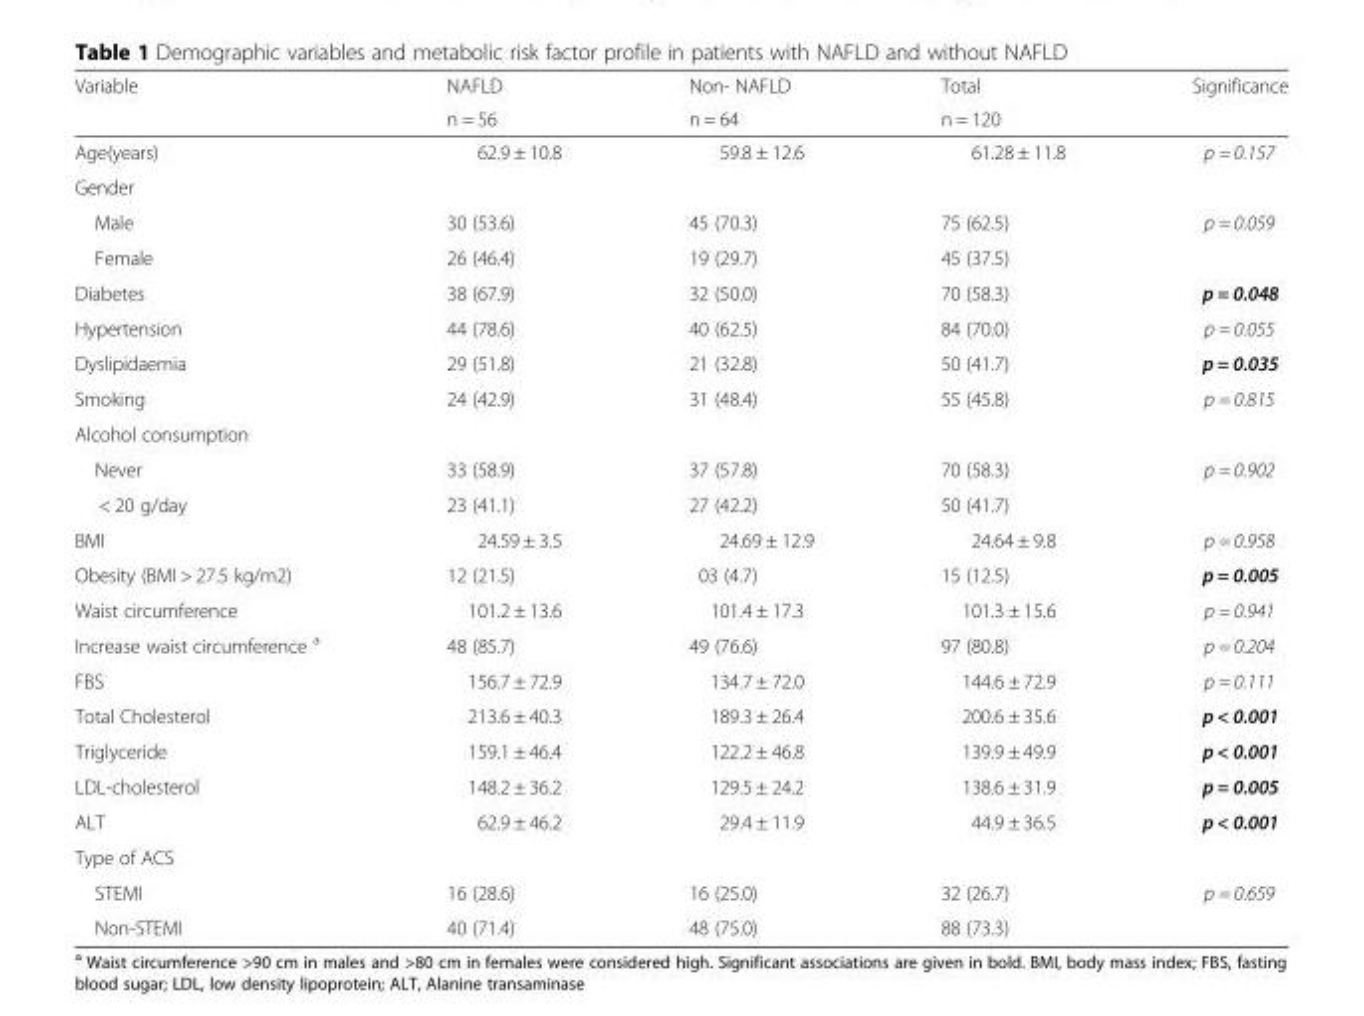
<table><thead><tr><td rowspan="2">Variable</td><td rowspan="2">NAFLD n = 56</td><td rowspan="2">Non- NAFLD n = 64</td><td rowspan="2">Total n = 120</td><td rowspan="2">Significance</td></tr><tr></tr></thead><tbody><tr><td>Age(years)</td><td>62.9 ± 10.8</td><td>59.8 ± 12.6</td><td>61.28 ± 11.8</td><td>p = 0.157</td></tr><tr><td colspan="5">Gender</td></tr><tr><td>Male</td><td>30 (53.6)</td><td>45 (70.3)</td><td>75 (62.5)</td><td rowspan="2">p = 0.059</td></tr><tr><td>Female</td><td>26 (46.4)</td><td>19 (29.7)</td><td>45 (37.5)</td></tr><tr><td>Diabetes</td><td>38 (67.9)</td><td>32 (50.0)</td><td>70 (58.3)</td><td>p = 0.048</td></tr><tr><td>Hypertension</td><td>44 (78.6)</td><td>40 (62.5)</td><td>84 (70.0)</td><td>p = 0.055</td></tr><tr><td>Dyslipidaemia</td><td>29 (51.8)</td><td>21 (32.8)</td><td>50 (41.7)</td><td>p = 0.035</td></tr><tr><td>Smoking</td><td>24 (42.9)</td><td>31 (48.4)</td><td>55 (45.8)</td><td>p = 0.815</td></tr><tr><td colspan="5">Alcohol consumption</td></tr><tr><td>Never</td><td>33 (58.9)</td><td>37 (57.8)</td><td>70 (58.3)</td><td rowspan="2">p = 0.902</td></tr><tr><td>&lt; 20 g/day</td><td>23 (41.1)</td><td>27 (42.2)</td><td>50 (41.7)</td></tr><tr><td>BMI</td><td>24.59 ± 3.5</td><td>24.69 ± 12.9</td><td>24.64 ± 9.8</td><td>p = 0.958</td></tr><tr><td>Obesity (BMI &gt; 27.5 kg/m2)</td><td>12 (21.5)</td><td>03 (4.7)</td><td>15 (12.5)</td><td>p = 0.005</td></tr><tr><td>Waist circumference</td><td>101.2 ± 13.6</td><td>101.4 ± 17.3</td><td>101.3 ± 15.6</td><td>p = 0.941</td></tr><tr><td>Increase waist circumference <sup>a</sup></td><td>48 (85.7)</td><td>49 (76.6)</td><td>97 (80.8)</td><td>p = 0.204</td></tr><tr><td>FBS</td><td>156.7 ± 72.9</td><td>134.7 ± 72.0</td><td>144.6 ± 72.9</td><td>p = 0.111</td></tr><tr><td>Total Cholesterol</td><td>213.6 ± 40.3</td><td>189.3 ± 26.4</td><td>200.6 ± 35.6</td><td>p &lt; 0.001</td></tr><tr><td>Triglyceride</td><td>159.1 ± 46.4</td><td>122.2 ± 46.8</td><td>139.9 ± 49.9</td><td>p &lt; 0.001</td></tr><tr><td>LDL-cholesterol</td><td>148.2 ± 36.2</td><td>129.5 ± 24.2</td><td>138.6 ± 31.9</td><td>p = 0.005</td></tr><tr><td>ALT</td><td>62.9 ± 46.2</td><td>29.4 ± 11.9</td><td>44.9 ± 36.5</td><td>p &lt; 0.001</td></tr><tr><td colspan="5">Type of ACS</td></tr><tr><td>STEMI</td><td>16 (28.6)</td><td>16 (25.0)</td><td>32 (26.7)</td><td rowspan="2">p = 0.659</td></tr><tr><td>Non-STEMI</td><td>40 (71.4)</td><td>48 (75.0)</td><td>88 (73.3)</td></tr></tbody></table>